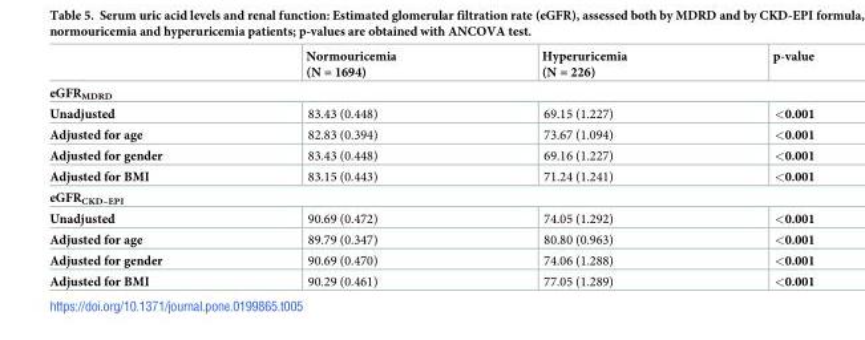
<table><thead><tr><td></td><td>Normouricemia (N = 1694)</td><td>Hyperuricemia (N = 226)</td><td>p-value</td></tr></thead><tbody><tr><td colspan="4">eGFR<sub>MDRD</sub></td></tr><tr><td>Unadjusted</td><td>83.43 (0.448)</td><td>69.15 (1.227)</td><td>&lt;0.001</td></tr><tr><td>Adjusted for age</td><td>82.83 (0.394)</td><td>73.67 (1.094)</td><td>&lt;0.001</td></tr><tr><td>Adjusted for gender</td><td>83.43 (0.448)</td><td>69.16 (1.227)</td><td>&lt;0.001</td></tr><tr><td>Adjusted for BMI</td><td>83.15 (0.443)</td><td>71.24 (1.241)</td><td>&lt;0.001</td></tr><tr><td colspan="4">eGFR<sub>CKD–EPI</sub></td></tr><tr><td>Unadjusted</td><td>90.69 (0.472)</td><td>74.05 (1.292)</td><td>&lt;0.001</td></tr><tr><td>Adjusted for age</td><td>89.79 (0.347)</td><td>80.80 (0.963)</td><td>&lt;0.001</td></tr><tr><td>Adjusted for gender</td><td>90.69 (0.470)</td><td>74.06 (1.288)</td><td>&lt;0.001</td></tr><tr><td>Adjusted for BMI</td><td>90.29 (0.461)</td><td>77.05 (1.289)</td><td>&lt;0.001</td></tr></tbody></table>